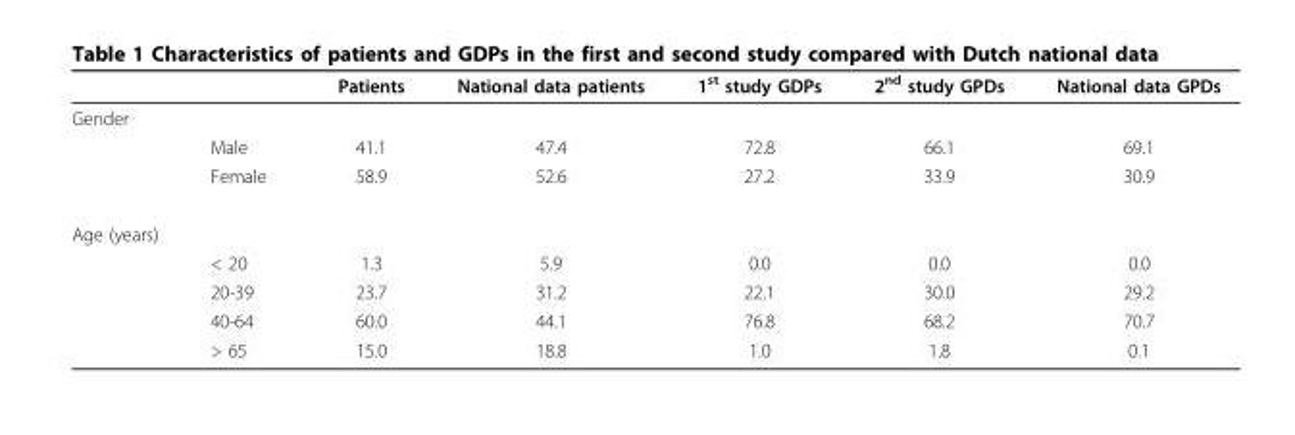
<table><thead><tr><td></td><td></td><td>Patients</td><td>National data patients</td><td>1<sup>st</sup> study GDPs</td><td>2<sup>nd</sup> study GPDs</td><td>National data GPDs</td></tr></thead><tbody><tr><td colspan="7">Gender</td></tr><tr><td></td><td>Male</td><td>41.1</td><td>47.4</td><td>72.8</td><td>66.1</td><td>69.1</td></tr><tr><td></td><td>Female</td><td>58.9</td><td>52.6</td><td>27.2</td><td>33.9</td><td>30.9</td></tr><tr><td colspan="7">Age (years)</td></tr><tr><td></td><td>&lt; 20</td><td>1.3</td><td>5.9</td><td>0.0</td><td>0.0</td><td>0.0</td></tr><tr><td></td><td>20-39</td><td>23.7</td><td>31.2</td><td>22.1</td><td>30.0</td><td>29.2</td></tr><tr><td></td><td>40-64</td><td>60.0</td><td>44.1</td><td>76.8</td><td>68.2</td><td>70.7</td></tr><tr><td></td><td>&gt; 65</td><td>15.0</td><td>18.8</td><td>1.0</td><td>1.8</td><td>0.1</td></tr></tbody></table>